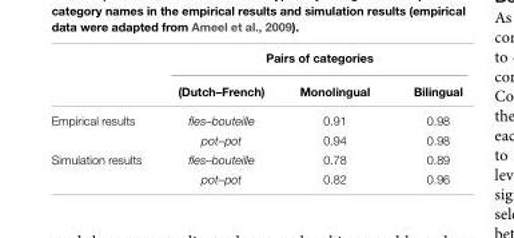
<table><thead><tr><td rowspan="2"></td><td colspan="3">Pairs of categories</td></tr><tr><td>(Dutch–French)</td><td>Monolingual</td><td>Bilingual</td></tr></thead><tbody><tr><td rowspan="2">Empirical results</td><td>fles–bouteille</td><td>0.91</td><td>0.98</td></tr><tr><td>pot–pot</td><td>0.94</td><td>0.98</td></tr><tr><td rowspan="2">Simulation results</td><td>fles–bouteille</td><td>0.78</td><td>0.89</td></tr><tr><td>pot–pot</td><td>0.82</td><td>0.96</td></tr></tbody></table>